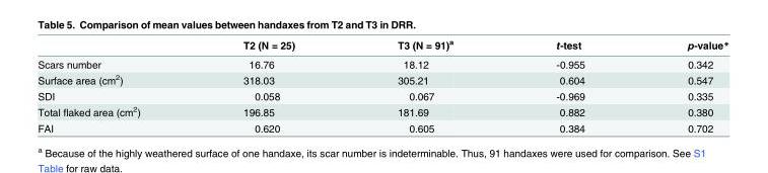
<table><thead><tr><td></td><td>T2 (N = 25)</td><td>T3 (N = 91)<sup>a</sup></td><td>t-test</td><td>p-value*</td></tr></thead><tbody><tr><td>Scars number</td><td>16.76</td><td>18.12</td><td>-0.955</td><td>0.342</td></tr><tr><td>Surface area (cm<sup>2</sup>)</td><td>318.03</td><td>305.21</td><td>0.604</td><td>0.547</td></tr><tr><td>SDI</td><td>0.058</td><td>0.067</td><td>-0.969</td><td>0.335</td></tr><tr><td>Total flaked area (cm<sup>2</sup>)</td><td>196.85</td><td>181.69</td><td>0.882</td><td>0.380</td></tr><tr><td>FAI</td><td>0.620</td><td>0.605</td><td>0.384</td><td>0.702</td></tr></tbody></table>